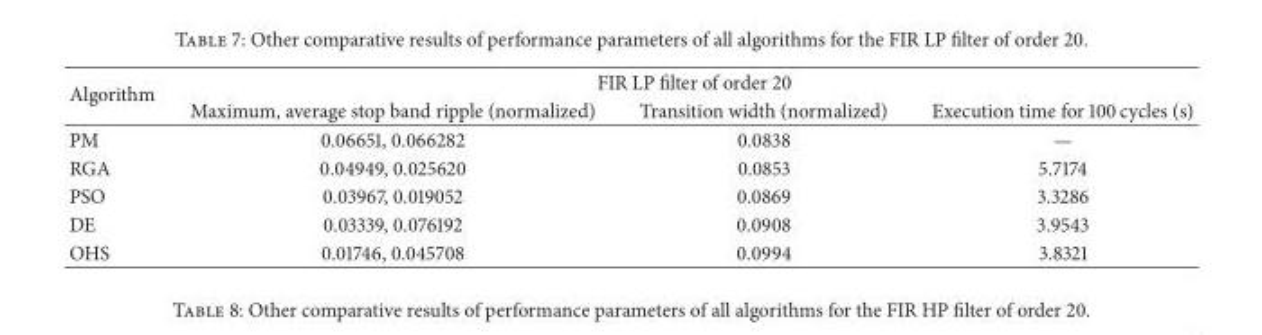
<table><thead><tr><td rowspan="2">Algorithm</td><td colspan="3">FIR LP filter of order 20</td></tr><tr><td>Maximum, average stop band ripple (normalized)</td><td>Transition width (normalized)</td><td>Execution time for 100 cycles (s)</td></tr></thead><tbody><tr><td>PM</td><td>0.06651, 0.066282</td><td>0.0838</td><td>—</td></tr><tr><td>RGA</td><td>0.04949, 0.025620</td><td>0.0853</td><td>5.7174</td></tr><tr><td>PSO</td><td>0.03967, 0.019052</td><td>0.0869</td><td>3.3286</td></tr><tr><td>DE</td><td>0.03339, 0.076192</td><td>0.0908</td><td>3.9543</td></tr><tr><td>OHS</td><td>0.01746, 0.045708</td><td>0.0994</td><td>3.8321</td></tr></tbody></table>